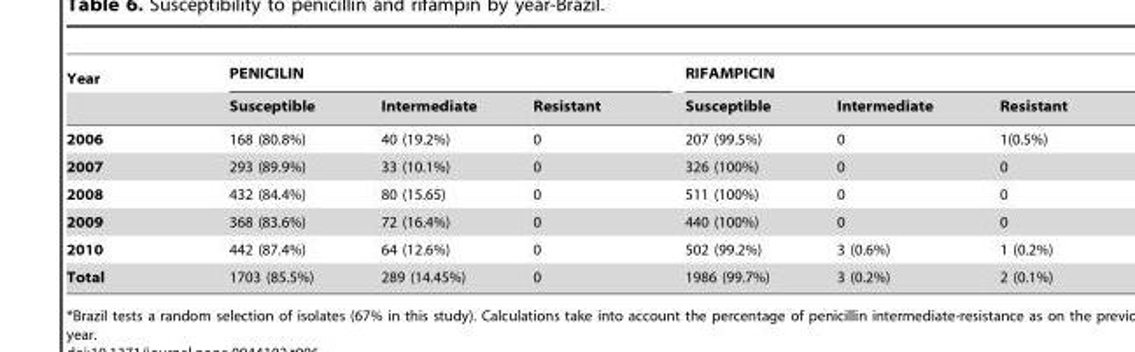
<table><thead><tr><td rowspan="2">Year</td><td colspan="3">PENICILIN</td><td colspan="3">RIFAMPICIN</td></tr><tr><td>Susceptible</td><td>Intermediate</td><td>Resistant</td><td>Susceptible</td><td>Intermediate</td><td>Resistant</td></tr></thead><tbody><tr><td>2006</td><td>168 (80.8%)</td><td>40 (19.2%)</td><td>0</td><td>207 (99.5%)</td><td>0</td><td>1(0.5%)</td></tr><tr><td>2007</td><td>293 (89.9%)</td><td>33 (10.1%)</td><td>0</td><td>326 (100%)</td><td>0</td><td>0</td></tr><tr><td>2008</td><td>432 (84.4%)</td><td>80 (15.65)</td><td>0</td><td>511 (100%)</td><td>0</td><td>0</td></tr><tr><td>2009</td><td>368 (83.6%)</td><td>72 (16.4%)</td><td>0</td><td>440 (100%)</td><td>0</td><td>0</td></tr><tr><td>2010</td><td>442 (87.4%)</td><td>64 (12.6%)</td><td>0</td><td>502 (99.2%)</td><td>3 (0.6%)</td><td>1 (0.2%)</td></tr><tr><td>Total</td><td>1703 (85.5%)</td><td>289 (14.45%)</td><td>0</td><td>1986 (99.7%)</td><td>3 (0.2%)</td><td>2 (0.1%)</td></tr></tbody></table>